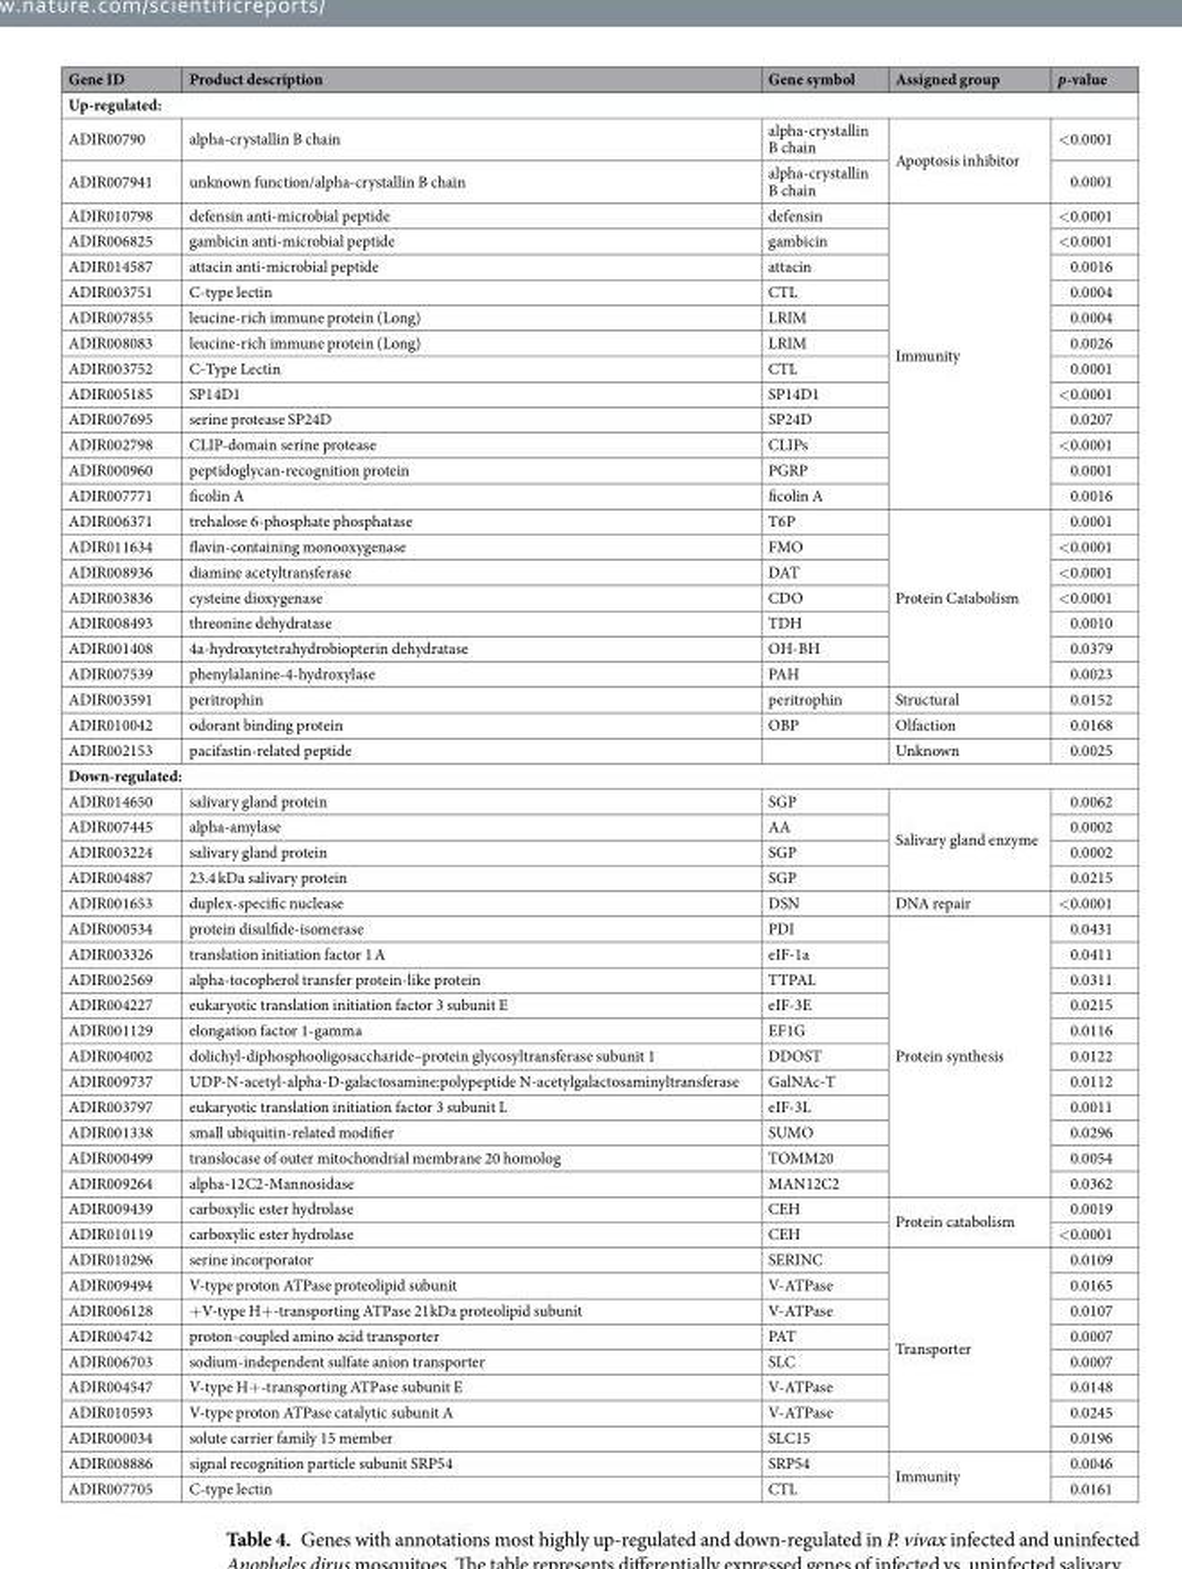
<table><thead><tr><td>Gene ID</td><td>Product description</td><td>Gene symbol</td><td>Assigned group</td><td>p-value</td></tr></thead><tbody><tr><td colspan="5">Up-regulated:</td></tr><tr><td>ADIR00790</td><td>alpha-crystallin B chain</td><td>alpha-crystallin B chain</td><td rowspan="2">Apoptosis inhibitor</td><td>&lt;0.0001</td></tr><tr><td>ADIR007941</td><td>unknown function/alpha-crystallin B chain</td><td>alpha-crystallin B chain</td><td>0.0001</td></tr><tr><td>ADIR010798</td><td>defensin anti-microbial peptide</td><td>defensin</td><td rowspan="12">Immunity</td><td>&lt;0.0001</td></tr><tr><td>ADIR006825</td><td>gambicin anti-microbial peptide</td><td>gambicin</td><td>&lt;0.0001</td></tr><tr><td>ADIR014587</td><td>attacin anti-microbial peptide</td><td>attacin</td><td>0.0016</td></tr><tr><td>ADIR003751</td><td>C-type lectin</td><td>CTL</td><td>0.0004</td></tr><tr><td>ADIR007855</td><td>leucine-rich immune protein (Long)</td><td>LRIM</td><td>0.0004</td></tr><tr><td>ADIR008083</td><td>leucine-rich immune protein (Long)</td><td>LRIM</td><td>0.0026</td></tr><tr><td>ADIR003752</td><td>C-Type Lectin</td><td>CTL</td><td>0.0001</td></tr><tr><td>ADIR005185</td><td>SP14D1</td><td>SP14D1</td><td>&lt;0.0001</td></tr><tr><td>ADIR007695</td><td>serine protease SP24D</td><td>SP24D</td><td>0.0207</td></tr><tr><td>ADIR002798</td><td>CLIP-domain serine protease</td><td>CLIPs</td><td>&lt;0.0001</td></tr><tr><td>ADIR000960</td><td>peptidoglycan-recognition protein</td><td>PGRP</td><td>0.0001</td></tr><tr><td>ADIR007771</td><td>ficolin A</td><td>ficolin A</td><td>0.0016</td></tr><tr><td>ADIR006371</td><td>trehalose 6-phosphate phosphatase</td><td>T6P</td><td rowspan="7">Protein Catabolism</td><td>0.0001</td></tr><tr><td>ADIR011634</td><td>flavin-containing monooxygenase</td><td>FMO</td><td>&lt;0.0001</td></tr><tr><td>ADIR008936</td><td>diamine acetyltransferase</td><td>DAT</td><td>&lt;0.0001</td></tr><tr><td>ADIR003836</td><td>cysteine dioxygenase</td><td>CDO</td><td>&lt;0.0001</td></tr><tr><td>ADIR008493</td><td>threonine dehydratase</td><td>TDH</td><td>0.0010</td></tr><tr><td>ADIR001408</td><td>4a-hydroxytetrahydrobiopterin dehydratase</td><td>OH-BH</td><td>0.0379</td></tr><tr><td>ADIR007539</td><td>phenylalanine-4-hydroxylase</td><td>PAH</td><td>0.0023</td></tr><tr><td>ADIR003591</td><td>peritrophin</td><td>peritrophin</td><td>Structural</td><td>0.0152</td></tr><tr><td>ADIR010042</td><td>odorant binding protein</td><td>OBP</td><td>Olfaction</td><td>0.0168</td></tr><tr><td>ADIR002153</td><td>pacifastin-related peptide</td><td></td><td>Unknown</td><td>0.0025</td></tr><tr><td colspan="5">Down-regulated:</td></tr><tr><td>ADIR014650</td><td>salivary gland protein</td><td>SGP</td><td rowspan="4">Salivary gland enzyme</td><td>0.0062</td></tr><tr><td>ADIR007445</td><td>alpha-amylase</td><td>AA</td><td>0.0002</td></tr><tr><td>ADIR003224</td><td>salivary gland protein</td><td>SGP</td><td>0.0002</td></tr><tr><td>ADIR004887</td><td>23.4 kDa salivary protein</td><td>SGP</td><td>0.0215</td></tr><tr><td>ADIR001653</td><td>duplex-specific nuclease</td><td>DSN</td><td>DNA repair</td><td>&lt;0.0001</td></tr><tr><td>ADIR000534</td><td>protein disulfide-isomerase</td><td>PDI</td><td rowspan="11">Protein synthesis</td><td>0.0431</td></tr><tr><td>ADIR003326</td><td>translation initiation factor 1 A</td><td>eIF-1a</td><td>0.0411</td></tr><tr><td>ADIR002569</td><td>alpha-tocopherol transfer protein-like protein</td><td>TTPAL</td><td>0.0311</td></tr><tr><td>ADIR004227</td><td>eukaryotic translation initiation factor 3 subunit E</td><td>eIF-3E</td><td>0.0215</td></tr><tr><td>ADIR001129</td><td>elongation factor 1-gamma</td><td>EF1G</td><td>0.0116</td></tr><tr><td>ADIR004002</td><td>dolichyl-diphosphooligosaccharide–protein glycosyltransferase subunit 1</td><td>DDOST</td><td>0.0122</td></tr><tr><td>ADIR009737</td><td>UDP-N-acetyl-alpha-D-galactosamine:polypeptide N-acetylgalactosaminyltransferase</td><td>GalNAc-T</td><td>0.0112</td></tr><tr><td>ADIR003797</td><td>eukaryotic translation initiation factor 3 subunit L</td><td>eIF-3L</td><td>0.0011</td></tr><tr><td>ADIR001338</td><td>small ubiquitin-related modifier</td><td>SUMO</td><td>0.0296</td></tr><tr><td>ADIR000499</td><td>translocase of outer mitochondrial membrane 20 homolog</td><td>TOMM20</td><td>0.0054</td></tr><tr><td>ADIR009264</td><td>alpha-12C2-Mannosidase</td><td>MAN12C2</td><td>0.0362</td></tr><tr><td>ADIR009439</td><td>carboxylic ester hydrolase</td><td>CEH</td><td rowspan="2">Protein catabolism</td><td>0.0019</td></tr><tr><td>ADIR010119</td><td>carboxylic ester hydrolase</td><td>CEH</td><td>&lt;0.0001</td></tr><tr><td>ADIR010296</td><td>serine incorporator</td><td>SERINC</td><td rowspan="8">Transporter</td><td>0.0109</td></tr><tr><td>ADIR009494</td><td>V-type proton ATPase proteolipid subunit</td><td>V-ATPase</td><td>0.0165</td></tr><tr><td>ADIR006128</td><td>+V-type H+-transporting ATPase 21kDa proteolipid subunit</td><td>V-ATPase</td><td>0.0107</td></tr><tr><td>ADIR004742</td><td>proton-coupled amino acid transporter</td><td>PAT</td><td>0.0007</td></tr><tr><td>ADIR006703</td><td>sodium-independent sulfate anion transporter</td><td>SLC</td><td>0.0007</td></tr><tr><td>ADIR004547</td><td>V-type H+-transporting ATPase subunit E</td><td>V-ATPase</td><td>0.0148</td></tr><tr><td>ADIR010593</td><td>V-type proton ATPase catalytic subunit A</td><td>V-ATPase</td><td>0.0245</td></tr><tr><td>ADIR000034</td><td>solute carrier family 15 member</td><td>SLC15</td><td>0.0196</td></tr><tr><td>ADIR008886</td><td>signal recognition particle subunit SRP54</td><td>SRP54</td><td rowspan="2">Immunity</td><td>0.0046</td></tr><tr><td>ADIR007705</td><td>C-type lectin</td><td>CTL</td><td>0.0161</td></tr></tbody></table>